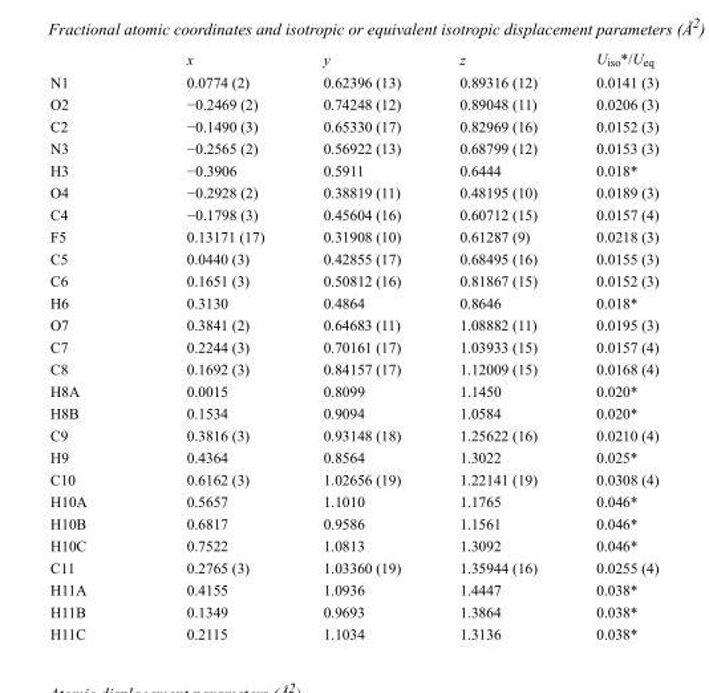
<table><thead><tr><td></td><td>x</td><td>y</td><td>z</td><td>U<sub>iso</sub>*/U<sub>eq</sub></td></tr></thead><tbody><tr><td>N1</td><td>0.0774 (2)</td><td>0.62396 (13)</td><td>0.89316 (12)</td><td>0.0141 (3)</td></tr><tr><td>O2</td><td>−0.2469 (2)</td><td>0.74248 (12)</td><td>0.89048 (11)</td><td>0.0206 (3)</td></tr><tr><td>C2</td><td>−0.1490 (3)</td><td>0.65330 (17)</td><td>0.82969 (16)</td><td>0.0152 (3)</td></tr><tr><td>N3</td><td>−0.2565 (2)</td><td>0.56922 (13)</td><td>0.68799 (12)</td><td>0.0153 (3)</td></tr><tr><td>H3</td><td>−0.3906</td><td>0.5911</td><td>0.6444</td><td>0.018*</td></tr><tr><td>O4</td><td>−0.2928 (2)</td><td>0.38819 (11)</td><td>0.48195 (10)</td><td>0.0189 (3)</td></tr><tr><td>C4</td><td>−0.1798 (3)</td><td>0.45604 (16)</td><td>0.60712 (15)</td><td>0.0157 (4)</td></tr><tr><td>F5</td><td>0.13171 (17)</td><td>0.31908 (10)</td><td>0.61287 (9)</td><td>0.0218 (3)</td></tr><tr><td>C5</td><td>0.0440 (3)</td><td>0.42855 (17)</td><td>0.68495 (16)</td><td>0.0155 (3)</td></tr><tr><td>C6</td><td>0.1651 (3)</td><td>0.50812 (16)</td><td>0.81867 (15)</td><td>0.0152 (3)</td></tr><tr><td>H6</td><td>0.3130</td><td>0.4864</td><td>0.8646</td><td>0.018*</td></tr><tr><td>O7</td><td>0.3841 (2)</td><td>0.64683 (11)</td><td>1.08882 (11)</td><td>0.0195 (3)</td></tr><tr><td>C7</td><td>0.2244 (3)</td><td>0.70161 (17)</td><td>1.03933 (15)</td><td>0.0157 (4)</td></tr><tr><td>C8</td><td>0.1692 (3)</td><td>0.84157 (17)</td><td>1.12009 (15)</td><td>0.0168 (4)</td></tr><tr><td>H8A</td><td>0.0015</td><td>0.8099</td><td>1.1450</td><td>0.020*</td></tr><tr><td>H8B</td><td>0.1534</td><td>0.9094</td><td>1.0584</td><td>0.020*</td></tr><tr><td>C9</td><td>0.3816 (3)</td><td>0.93148 (18)</td><td>1.25622 (16)</td><td>0.0210 (4)</td></tr><tr><td>H9</td><td>0.4364</td><td>0.8564</td><td>1.3022</td><td>0.025*</td></tr><tr><td>C10</td><td>0.6162 (3)</td><td>1.02656 (19)</td><td>1.22141 (19)</td><td>0.0308 (4)</td></tr><tr><td>H10A</td><td>0.5657</td><td>1.1010</td><td>1.1765</td><td>0.046*</td></tr><tr><td>H10B</td><td>0.6817</td><td>0.9586</td><td>1.1561</td><td>0.046*</td></tr><tr><td>H10C</td><td>0.7522</td><td>1.0813</td><td>1.3092</td><td>0.046*</td></tr><tr><td>C11</td><td>0.2765 (3)</td><td>1.03360 (19)</td><td>1.35944 (16)</td><td>0.0255 (4)</td></tr><tr><td>H11A</td><td>0.4155</td><td>1.0936</td><td>1.4447</td><td>0.038*</td></tr><tr><td>H11B</td><td>0.1349</td><td>0.9693</td><td>1.3864</td><td>0.038*</td></tr><tr><td>H11C</td><td>0.2115</td><td>1.1034</td><td>1.3136</td><td>0.038*</td></tr></tbody></table>